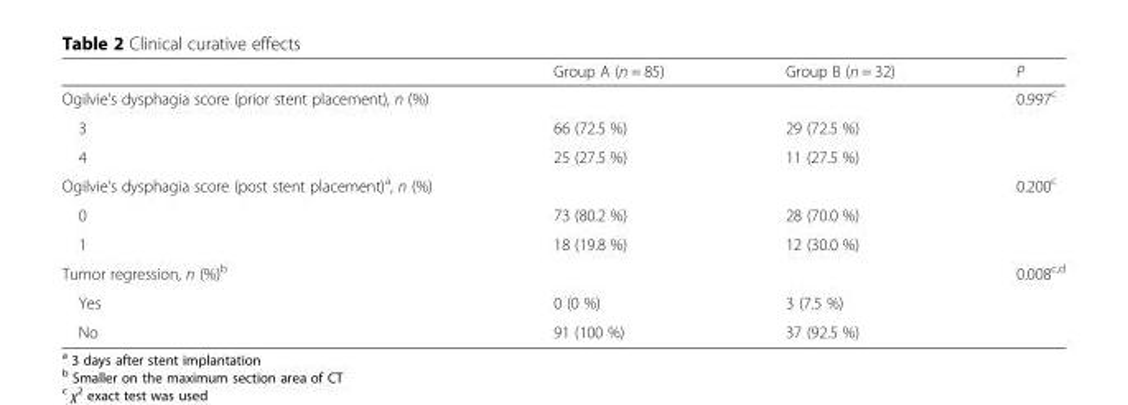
<table><thead><tr><td></td><td>Group A (n = 85)</td><td>Group B (n = 32)</td><td>P</td></tr></thead><tbody><tr><td>Ogilvie’s dysphagia score (prior stent placement), n (%)</td><td></td><td></td><td>0.997<sup>c</sup></td></tr><tr><td>3</td><td>66 (72.5 %)</td><td>29 (72.5 %)</td><td></td></tr><tr><td>4</td><td>25 (27.5 %)</td><td>11 (27.5 %)</td><td></td></tr><tr><td>Ogilvie’s dysphagia score (post stent placement)<sup>a</sup>, n (%)</td><td></td><td></td><td>0.200<sup>c</sup></td></tr><tr><td>0</td><td>73 (80.2 %)</td><td>28 (70.0 %)</td><td></td></tr><tr><td>1</td><td>18 (19.8 %)</td><td>12 (30.0 %)</td><td></td></tr><tr><td>Tumor regression, n (%)<sup>b</sup></td><td></td><td></td><td>0.008<sup>c,d</sup></td></tr><tr><td>Yes</td><td>0 (0 %)</td><td>3 (7.5 %)</td><td></td></tr><tr><td>No</td><td>91 (100 %)</td><td>37 (92.5 %)</td><td></td></tr></tbody></table>